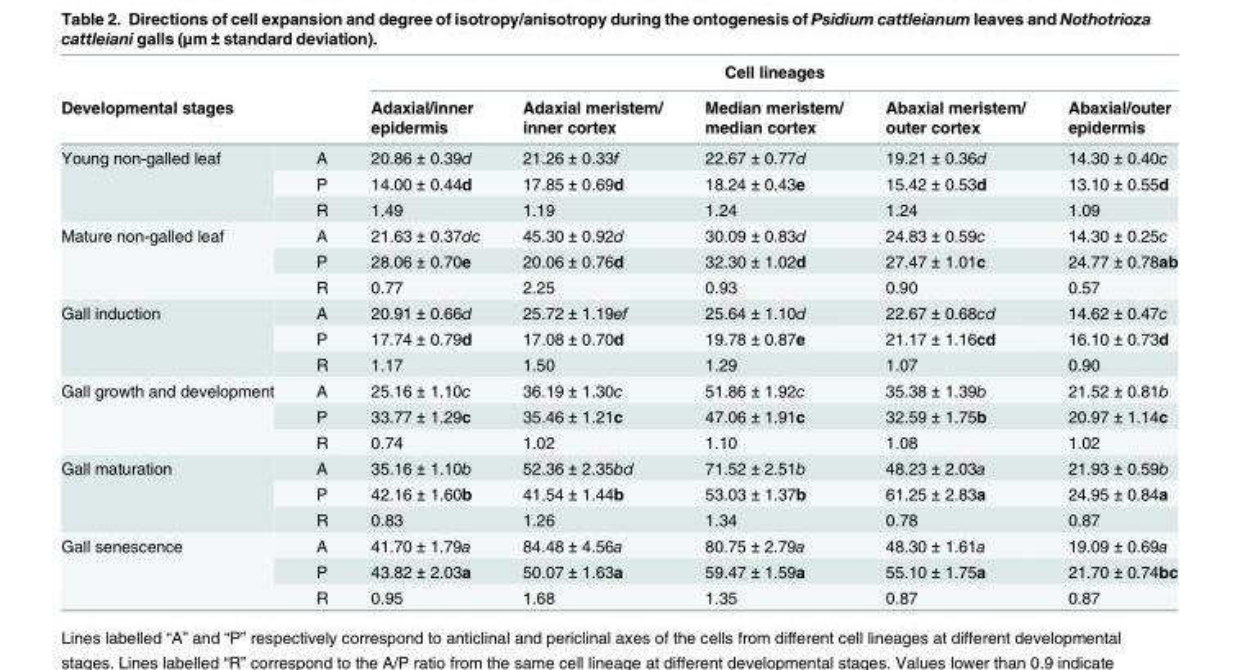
<table><thead><tr><td rowspan="2">Developmental stages</td><td rowspan="2"></td><td colspan="5">Cell lineages</td></tr><tr><td>Adaxial/inner epidermis</td><td>Adaxial meristem/ inner cortex</td><td>Median meristem/ median cortex</td><td>Abaxial meristem/ outer cortex</td><td>Abaxial/outer epidermis</td></tr></thead><tbody><tr><td rowspan="3">Young non-galled leaf</td><td>A</td><td>20.86 ± 0.39d</td><td>21.26 ± 0.33f</td><td>22.67 ± 0.77d</td><td>19.21 ± 0.36d</td><td>14.30 ± 0.40c</td></tr><tr><td>P</td><td>14.00 ± 0.44d</td><td>17.85 ± 0.69d</td><td>18.24 ± 0.43e</td><td>15.42 ± 0.53d</td><td>13.10 ± 0.55d</td></tr><tr><td>R</td><td>1.49</td><td>1.19</td><td>1.24</td><td>1.24</td><td>1.09</td></tr><tr><td rowspan="3">Mature non-galled leaf</td><td>A</td><td>21.63 ± 0.37dc</td><td>45.30 ± 0.92d</td><td>30.09 ± 0.83d</td><td>24.83 ± 0.59c</td><td>14.30 ± 0.25c</td></tr><tr><td>P</td><td>28.06 ± 0.70e</td><td>20.06 ± 0.76d</td><td>32.30 ± 1.02d</td><td>27.47 ± 1.01c</td><td>24.77 ± 0.78ab</td></tr><tr><td>R</td><td>0.77</td><td>2.25</td><td>0.93</td><td>0.90</td><td>0.57</td></tr><tr><td rowspan="3">Gall induction</td><td>A</td><td>20.91 ± 0.66d</td><td>25.72 ± 1.19ef</td><td>25.64 ± 1.10d</td><td>22.67 ± 0.68cd</td><td>14.62 ± 0.47c</td></tr><tr><td>P</td><td>17.74 ± 0.79d</td><td>17.08 ± 0.70d</td><td>19.78 ± 0.87e</td><td>21.17 ± 1.16cd</td><td>16.10 ± 0.73d</td></tr><tr><td>R</td><td>1.17</td><td>1.50</td><td>1.29</td><td>1.07</td><td>0.90</td></tr><tr><td rowspan="3">Gall growth and development</td><td>A</td><td>25.16 ± 1.10c</td><td>36.19 ± 1.30c</td><td>51.86 ± 1.92c</td><td>35.38 ± 1.39b</td><td>21.52 ± 0.81b</td></tr><tr><td>P</td><td>33.77 ± 1.29c</td><td>35.46 ± 1.21c</td><td>47.06 ± 1.91c</td><td>32.59 ± 1.75b</td><td>20.97 ± 1.14c</td></tr><tr><td>R</td><td>0.74</td><td>1.02</td><td>1.10</td><td>1.08</td><td>1.02</td></tr><tr><td rowspan="3">Gall maturation</td><td>A</td><td>35.16 ± 1.10b</td><td>52.36 ± 2.35bd</td><td>71.52 ± 2.51b</td><td>48.23 ± 2.03a</td><td>21.93 ± 0.59b</td></tr><tr><td>P</td><td>42.16 ± 1.60b</td><td>41.54 ± 1.44b</td><td>53.03 ± 1.37b</td><td>61.25 ± 2.83a</td><td>24.95 ± 0.84a</td></tr><tr><td>R</td><td>0.83</td><td>1.26</td><td>1.34</td><td>0.78</td><td>0.87</td></tr><tr><td rowspan="3">Gall senescence</td><td>A</td><td>41.70 ± 1.79a</td><td>84.48 ± 4.56a</td><td>80.75 ± 2.79a</td><td>48.30 ± 1.61a</td><td>19.09 ± 0.69a</td></tr><tr><td>P</td><td>43.82 ± 2.03a</td><td>50.07 ± 1.63a</td><td>59.47 ± 1.59a</td><td>55.10 ± 1.75a</td><td>21.70 ± 0.74bc</td></tr><tr><td>R</td><td>0.95</td><td>1.68</td><td>1.35</td><td>0.87</td><td>0.87</td></tr></tbody></table>